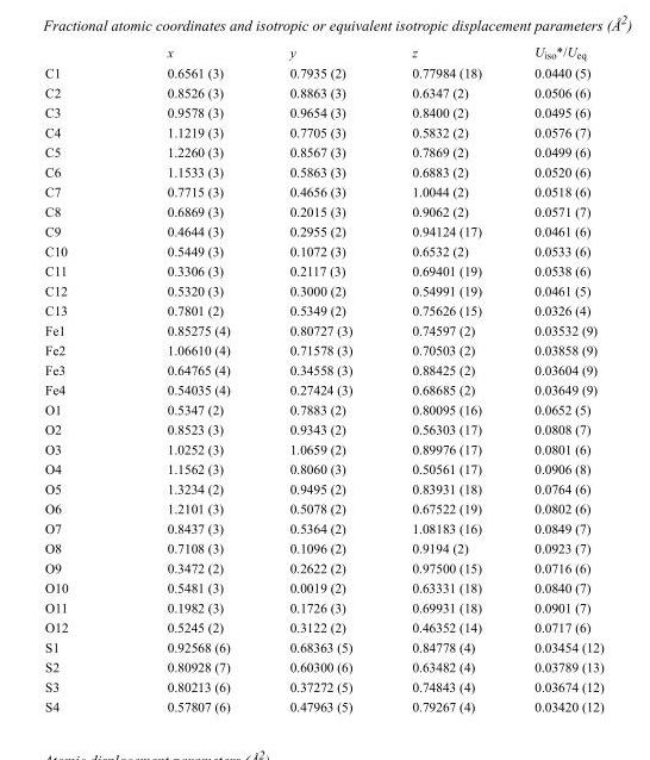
<table><thead><tr><td></td><td>x</td><td>y</td><td>z</td><td>U<sub>iso</sub>*/U<sub>eq</sub></td></tr></thead><tbody><tr><td>C1</td><td>0.6561 (3)</td><td>0.7935 (2)</td><td>0.77984 (18)</td><td>0.0440 (5)</td></tr><tr><td>C2</td><td>0.8526 (3)</td><td>0.8863 (3)</td><td>0.6347 (2)</td><td>0.0506 (6)</td></tr><tr><td>C3</td><td>0.9578 (3)</td><td>0.9654 (3)</td><td>0.8400 (2)</td><td>0.0495 (6)</td></tr><tr><td>C4</td><td>1.1219 (3)</td><td>0.7705 (3)</td><td>0.5832 (2)</td><td>0.0576 (7)</td></tr><tr><td>C5</td><td>1.2260 (3)</td><td>0.8567 (3)</td><td>0.7869 (2)</td><td>0.0499 (6)</td></tr><tr><td>C6</td><td>1.1533 (3)</td><td>0.5863 (3)</td><td>0.6883 (2)</td><td>0.0520 (6)</td></tr><tr><td>C7</td><td>0.7715 (3)</td><td>0.4656 (3)</td><td>1.0044 (2)</td><td>0.0518 (6)</td></tr><tr><td>C8</td><td>0.6869 (3)</td><td>0.2015 (3)</td><td>0.9062 (2)</td><td>0.0571 (7)</td></tr><tr><td>C9</td><td>0.4644 (3)</td><td>0.2955 (2)</td><td>0.94124 (17)</td><td>0.0461 (6)</td></tr><tr><td>C10</td><td>0.5449 (3)</td><td>0.1072 (3)</td><td>0.6532 (2)</td><td>0.0533 (6)</td></tr><tr><td>C11</td><td>0.3306 (3)</td><td>0.2117 (3)</td><td>0.69401 (19)</td><td>0.0538 (6)</td></tr><tr><td>C12</td><td>0.5320 (3)</td><td>0.3000 (2)</td><td>0.54991 (19)</td><td>0.0461 (5)</td></tr><tr><td>C13</td><td>0.7801 (2)</td><td>0.5349 (2)</td><td>0.75626 (15)</td><td>0.0326 (4)</td></tr><tr><td>Fe1</td><td>0.85275 (4)</td><td>0.80727 (3)</td><td>0.74597 (2)</td><td>0.03532 (9)</td></tr><tr><td>Fe2</td><td>1.06610 (4)</td><td>0.71578 (3)</td><td>0.70503 (2)</td><td>0.03858 (9)</td></tr><tr><td>Fe3</td><td>0.64765 (4)</td><td>0.34558 (3)</td><td>0.88425 (2)</td><td>0.03604 (9)</td></tr><tr><td>Fe4</td><td>0.54035 (4)</td><td>0.27424 (3)</td><td>0.68685 (2)</td><td>0.03649 (9)</td></tr><tr><td>O1</td><td>0.5347 (2)</td><td>0.7883 (2)</td><td>0.80095 (16)</td><td>0.0652 (5)</td></tr><tr><td>O2</td><td>0.8523 (3)</td><td>0.9343 (2)</td><td>0.56303 (17)</td><td>0.0808 (7)</td></tr><tr><td>O3</td><td>1.0252 (3)</td><td>1.0659 (2)</td><td>0.89976 (17)</td><td>0.0801 (6)</td></tr><tr><td>O4</td><td>1.1562 (3)</td><td>0.8060 (3)</td><td>0.50561 (17)</td><td>0.0906 (8)</td></tr><tr><td>O5</td><td>1.3234 (2)</td><td>0.9495 (2)</td><td>0.83931 (18)</td><td>0.0764 (6)</td></tr><tr><td>O6</td><td>1.2101 (3)</td><td>0.5078 (2)</td><td>0.67522 (19)</td><td>0.0802 (6)</td></tr><tr><td>O7</td><td>0.8437 (3)</td><td>0.5364 (2)</td><td>1.08183 (16)</td><td>0.0849 (7)</td></tr><tr><td>O8</td><td>0.7108 (3)</td><td>0.1096 (2)</td><td>0.9194 (2)</td><td>0.0923 (7)</td></tr><tr><td>O9</td><td>0.3472 (2)</td><td>0.2622 (2)</td><td>0.97500 (15)</td><td>0.0716 (6)</td></tr><tr><td>O10</td><td>0.5481 (3)</td><td>0.0019 (2)</td><td>0.63331 (18)</td><td>0.0840 (7)</td></tr><tr><td>O11</td><td>0.1982 (3)</td><td>0.1726 (3)</td><td>0.69931 (18)</td><td>0.0901 (7)</td></tr><tr><td>O12</td><td>0.5245 (2)</td><td>0.3122 (2)</td><td>0.46352 (14)</td><td>0.0717 (6)</td></tr><tr><td>S1</td><td>0.92568 (6)</td><td>0.68363 (5)</td><td>0.84778 (4)</td><td>0.03454 (12)</td></tr><tr><td>S2</td><td>0.80928 (7)</td><td>0.60300 (6)</td><td>0.63482 (4)</td><td>0.03789 (13)</td></tr><tr><td>S3</td><td>0.80213 (6)</td><td>0.37272 (5)</td><td>0.74843 (4)</td><td>0.03674 (12)</td></tr><tr><td>S4</td><td>0.57807 (6)</td><td>0.47963 (5)</td><td>0.79267 (4)</td><td>0.03420 (12)</td></tr></tbody></table>